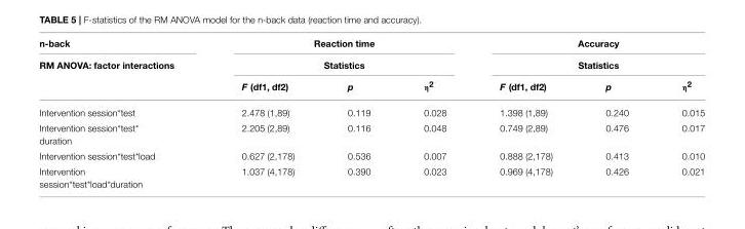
<table><thead><tr><td rowspan="3">n-back RM ANOVA: factor interactions</td><td rowspan="2" colspan="3">Reaction time Statistics</td><td rowspan="2" colspan="3">Accuracy Statistics</td></tr><tr></tr><tr><td>F (df1, df2)</td><td>p</td><td>η<sup>2</sup></td><td>F (df1, df2)</td><td>p</td><td>η<sup>2</sup></td></tr></thead><tbody><tr><td>Intervention session*test</td><td>2.478 (1,89)</td><td>0.119</td><td>0.028</td><td>1.398 (1,89)</td><td>0.240</td><td>0.015</td></tr><tr><td>Intervention session*test* duration</td><td>2.205 (2,89)</td><td>0.116</td><td>0.048</td><td>0.749 (2,89)</td><td>0.476</td><td>0.017</td></tr><tr><td>Intervention session*test*load</td><td>0.627 (2,178)</td><td>0.536</td><td>0.007</td><td>0.888 (2,178)</td><td>0.413</td><td>0.010</td></tr><tr><td>Intervention session*test*load*duration</td><td>1.037 (4,178)</td><td>0.390</td><td>0.023</td><td>0.969 (4,178)</td><td>0.426</td><td>0.021</td></tr></tbody></table>